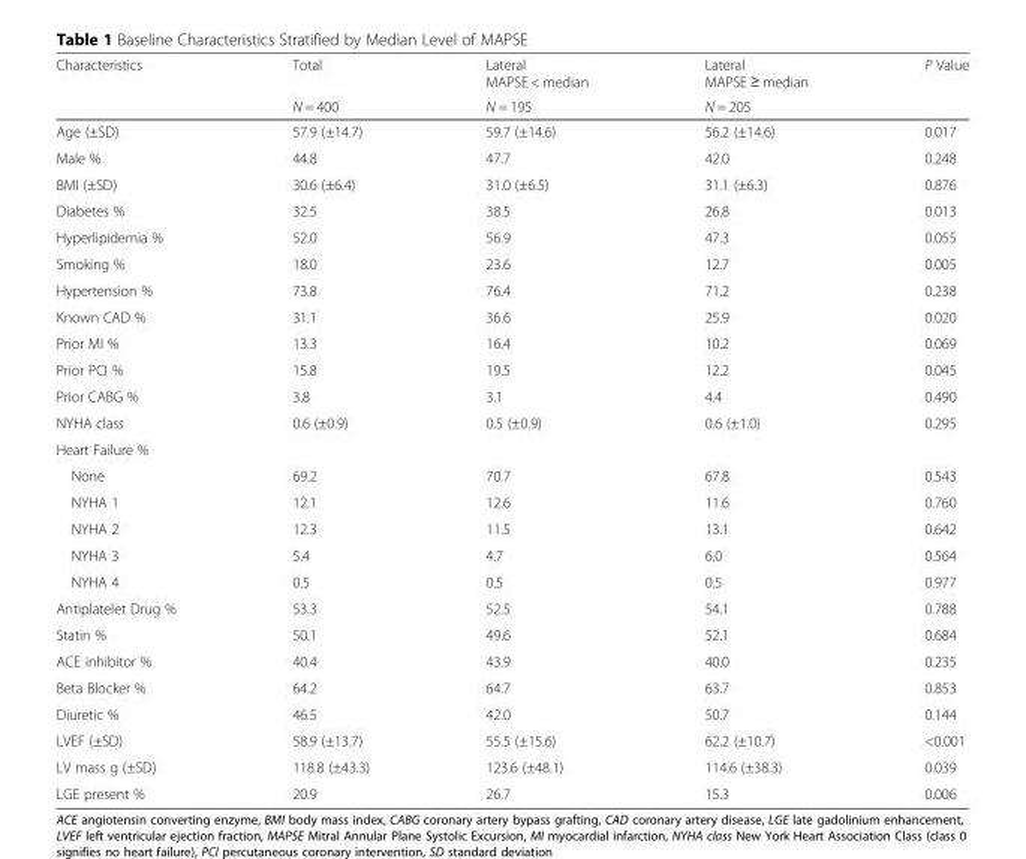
<table><thead><tr><td rowspan="2">Characteristics</td><td rowspan="2">Total N = 400</td><td rowspan="2">Lateral MAPSE &lt; median N = 195</td><td rowspan="2">Lateral MAPSE ≥ median N = 205</td><td rowspan="2">P Value</td></tr><tr></tr></thead><tbody><tr><td>Age (±SD)</td><td>57.9 (±14.7)</td><td>59.7 (±14.6)</td><td>56.2 (±14.6)</td><td>0.017</td></tr><tr><td>Male %</td><td>44.8</td><td>47.7</td><td>42.0</td><td>0.248</td></tr><tr><td>BMI (±SD)</td><td>30.6 (±6.4)</td><td>31.0 (±6.5)</td><td>31.1 (±6.3)</td><td>0.876</td></tr><tr><td>Diabetes %</td><td>32.5</td><td>38.5</td><td>26.8</td><td>0.013</td></tr><tr><td>Hyperlipidemia %</td><td>52.0</td><td>56.9</td><td>47.3</td><td>0.055</td></tr><tr><td>Smoking %</td><td>18.0</td><td>23.6</td><td>12.7</td><td>0.005</td></tr><tr><td>Hypertension %</td><td>73.8</td><td>76.4</td><td>71.2</td><td>0.238</td></tr><tr><td>Known CAD %</td><td>31.1</td><td>36.6</td><td>25.9</td><td>0.020</td></tr><tr><td>Prior MI %</td><td>13.3</td><td>16.4</td><td>10.2</td><td>0.069</td></tr><tr><td>Prior PCI %</td><td>15.8</td><td>19.5</td><td>12.2</td><td>0.045</td></tr><tr><td>Prior CABG %</td><td>3.8</td><td>3.1</td><td>4.4</td><td>0.490</td></tr><tr><td>NYHA class</td><td>0.6 (±0.9)</td><td>0.5 (±0.9)</td><td>0.6 (±1.0)</td><td>0.295</td></tr><tr><td colspan="5">Heart Failure %</td></tr><tr><td>None</td><td>69.2</td><td>70.7</td><td>67.8</td><td>0.543</td></tr><tr><td>NYHA 1</td><td>12.1</td><td>12.6</td><td>11.6</td><td>0.760</td></tr><tr><td>NYHA 2</td><td>12.3</td><td>11.5</td><td>13.1</td><td>0.642</td></tr><tr><td>NYHA 3</td><td>5.4</td><td>4.7</td><td>6.0</td><td>0.564</td></tr><tr><td>NYHA 4</td><td>0.5</td><td>0.5</td><td>0.5</td><td>0.977</td></tr><tr><td>Antiplatelet Drug %</td><td>53.3</td><td>52.5</td><td>54.1</td><td>0.788</td></tr><tr><td>Statin %</td><td>50.1</td><td>49.6</td><td>52.1</td><td>0.684</td></tr><tr><td>ACE inhibitor %</td><td>40.4</td><td>43.9</td><td>40.0</td><td>0.235</td></tr><tr><td>Beta Blocker %</td><td>64.2</td><td>64.7</td><td>63.7</td><td>0.853</td></tr><tr><td>Diuretic %</td><td>46.5</td><td>42.0</td><td>50.7</td><td>0.144</td></tr><tr><td>LVEF (±SD)</td><td>58.9 (±13.7)</td><td>55.5 (±15.6)</td><td>62.2 (±10.7)</td><td>&lt;0.001</td></tr><tr><td>LV mass g (±SD)</td><td>118.8 (±43.3)</td><td>123.6 (±48.1)</td><td>114.6 (±38.3)</td><td>0.039</td></tr><tr><td>LGE present %</td><td>20.9</td><td>26.7</td><td>15.3</td><td>0.006</td></tr></tbody></table>